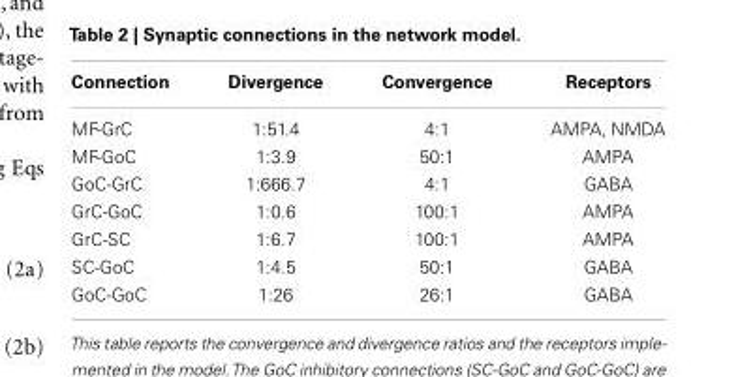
<table><thead><tr><td>Connection</td><td>Divergence</td><td>Convergence</td><td>Receptors</td></tr></thead><tbody><tr><td>MF-GrC</td><td>1:51.4</td><td>4:1</td><td>AMPA, NMDA</td></tr><tr><td>MF-GoC</td><td>1:3.9</td><td>50:1</td><td>AMPA</td></tr><tr><td>GoC-GrC</td><td>1:666.7</td><td>4:1</td><td>GABA</td></tr><tr><td>GrC-GoC</td><td>1:0.6</td><td>100:1</td><td>AMPA</td></tr><tr><td>GrC-SC</td><td>1:6.7</td><td>100:1</td><td>AMPA</td></tr><tr><td>SC-GoC</td><td>1:4.5</td><td>50:1</td><td>GABA</td></tr><tr><td>GoC-GoC</td><td>1:26</td><td>26:1</td><td>GABA</td></tr></tbody></table>